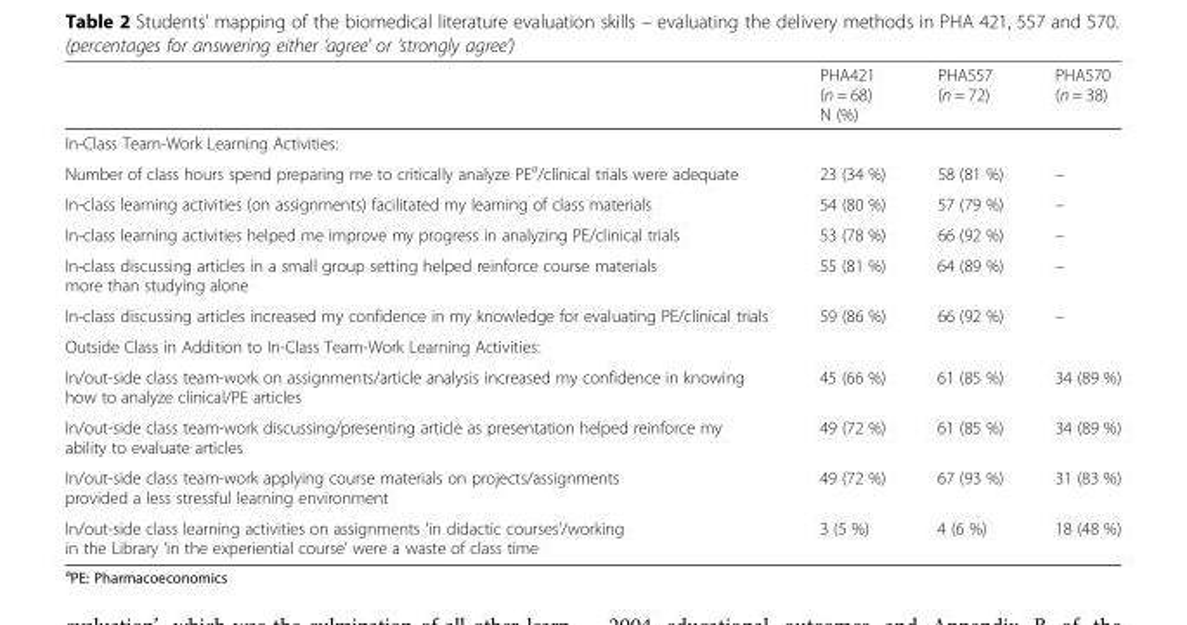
<table><thead><tr><td></td><td>PHA421 (n = 68) N (%)</td><td>PHA557 (n = 72)</td><td>PHA570 (n = 38)</td></tr></thead><tbody><tr><td colspan="4">In-Class Team-Work Learning Activities:</td></tr><tr><td>Number of class hours spend preparing me to critically analyze PE<sup>a</sup>/clinical trials were adequate</td><td>23 (34 %)</td><td>58 (81 %)</td><td>–</td></tr><tr><td>In-class learning activities (on assignments) facilitated my learning of class materials</td><td>54 (80 %)</td><td>57 (79 %)</td><td>–</td></tr><tr><td>In-class learning activities helped me improve my progress in analyzing PE/clinical trials</td><td>53 (78 %)</td><td>66 (92 %)</td><td>–</td></tr><tr><td>In-class discussing articles in a small group setting helped reinforce course materials more than studying alone</td><td>55 (81 %)</td><td>64 (89 %)</td><td>–</td></tr><tr><td>In-class discussing articles increased my confidence in my knowledge for evaluating PE/clinical trials</td><td>59 (86 %)</td><td>66 (92 %)</td><td>–</td></tr><tr><td colspan="4">Outside Class in Addition to In-Class Team-Work Learning Activities:</td></tr><tr><td>In/out-side class team-work on assignments/article analysis increased my confidence in knowing how to analyze clinical/PE articles</td><td>45 (66 %)</td><td>61 (85 %)</td><td>34 (89 %)</td></tr><tr><td>In/out-side class team-work discussing/presenting article as presentation helped reinforce my ability to evaluate articles</td><td>49 (72 %)</td><td>61 (85 %)</td><td>34 (89 %)</td></tr><tr><td>In/out-side class team-work applying course materials on projects/assignments provided a less stressful learning environment</td><td>49 (72 %)</td><td>67 (93 %)</td><td>31 (83 %)</td></tr><tr><td>In/out-side class learning activities on assignments ‘in didactic courses’/working in the Library ‘in the experiential course’ were a waste of class time</td><td>3 (5 %)</td><td>4 (6 %)</td><td>18 (48 %)</td></tr></tbody></table>